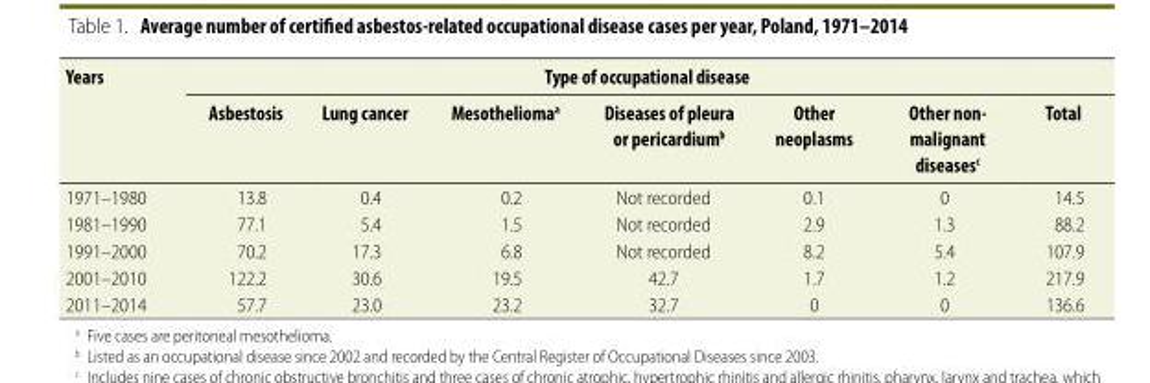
<table><thead><tr><td rowspan="2">Years</td><td colspan="7">Type of occupational disease</td></tr><tr><td>Asbestosis</td><td>Lung cancer</td><td>Mesothelioma<sup>a</sup></td><td>Diseases of pleura or pericardium<sup>b</sup></td><td>Other neoplasms</td><td>Other non- malignant diseases<sup>c</sup></td><td>Total</td></tr></thead><tbody><tr><td>1971–1980</td><td>13.8</td><td>0.4</td><td>0.2</td><td>Not recorded</td><td>0.1</td><td>0</td><td>14.5</td></tr><tr><td>1981–1990</td><td>77.1</td><td>5.4</td><td>1.5</td><td>Not recorded</td><td>2.9</td><td>1.3</td><td>88.2</td></tr><tr><td>1991–2000</td><td>70.2</td><td>17.3</td><td>6.8</td><td>Not recorded</td><td>8.2</td><td>5.4</td><td>107.9</td></tr><tr><td>2001–2010</td><td>122.2</td><td>30.6</td><td>19.5</td><td>42.7</td><td>1.7</td><td>1.2</td><td>217.9</td></tr><tr><td>2011–2014</td><td>57.7</td><td>23.0</td><td>23.2</td><td>32.7</td><td>0</td><td>0</td><td>136.6</td></tr></tbody></table>